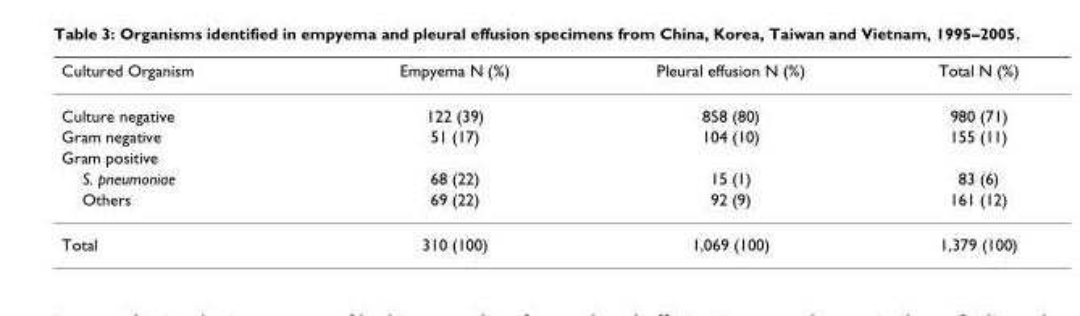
<table><thead><tr><td>Cultured Organism</td><td>Empyema N (%)</td><td>Pleural effusion N (%)</td><td>Total N (%)</td></tr></thead><tbody><tr><td>Culture negative</td><td>122 (39)</td><td>858 (80)</td><td>980 (71)</td></tr><tr><td>Gram negative</td><td>51 (17)</td><td>104 (10)</td><td>155 (11)</td></tr><tr><td colspan="4">Gram positive</td></tr><tr><td>S. pneumoniae</td><td>68 (22)</td><td>15 (1)</td><td>83 (6)</td></tr><tr><td>Others</td><td>69 (22)</td><td>92 (9)</td><td>161 (12)</td></tr><tr><td>Total</td><td>310 (100)</td><td>1,069 (100)</td><td>1,379 (100)</td></tr></tbody></table>